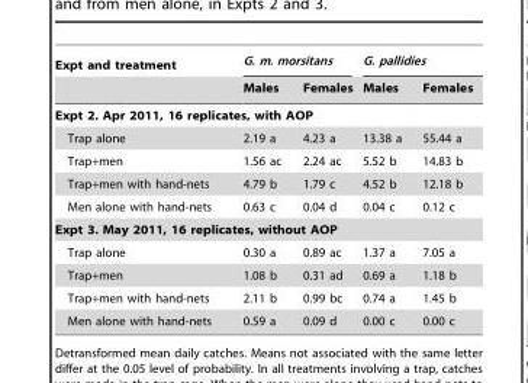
<table><thead><tr><td rowspan="2">Expt and treatment</td><td colspan="2">G. m. morsitans</td><td colspan="2">G. pallidies</td></tr><tr><td>Males</td><td>Females</td><td>Males</td><td>Females</td></tr></thead><tbody><tr><td colspan="5">Expt 2. Apr 2011, 16 replicates, with AOP</td></tr><tr><td>Trap alone</td><td>2.19 a</td><td>4.23 a</td><td>13.38 a</td><td>55.44 a</td></tr><tr><td>Trap+men</td><td>1.56 ac</td><td>2.24 ac</td><td>5.52 b</td><td>14.83 b</td></tr><tr><td>Trap+men with hand-nets</td><td>4.79 b</td><td>1.79 c</td><td>4.52 b</td><td>12.18 b</td></tr><tr><td>Men alone with hand-nets</td><td>0.63 c</td><td>0.04 d</td><td>0.04 c</td><td>0.12 c</td></tr><tr><td colspan="5">Expt 3. May 2011, 16 replicates, without AOP</td></tr><tr><td>Trap alone</td><td>0.30 a</td><td>0.89 ac</td><td>1.37 a</td><td>7.05 a</td></tr><tr><td>Trap+men</td><td>1.08 b</td><td>0.31 ad</td><td>0.69 a</td><td>1.18 b</td></tr><tr><td>Trap+men with hand-nets</td><td>2.11 b</td><td>0.99 bc</td><td>0.74 a</td><td>1.45 b</td></tr><tr><td>Men alone with hand-nets</td><td>0.59 a</td><td>0.09 d</td><td>0.00 c</td><td>0.00 c</td></tr></tbody></table>